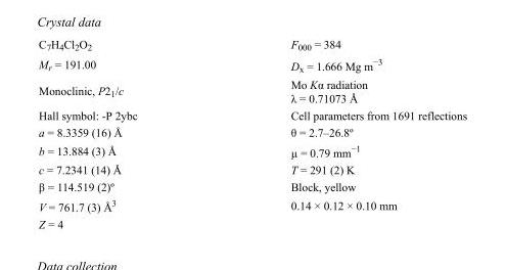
<table><tbody><tr><td>C<sub>7</sub>H<sub>4</sub>Cl<sub>2</sub>O<sub>2</sub></td><td>F<sub>000</sub> = 384</td></tr><tr><td>M<sub>r</sub> = 191.00</td><td>D<sub>x</sub> = 1.666 Mg m<sup>−3</sup></td></tr><tr><td>Monoclinic, P2<sub>1</sub>/c</td><td>Mo Kα radiation λ = 0.71073 Å</td></tr><tr><td>Hall symbol: -P 2ybc</td><td>Cell parameters from 1691 reflections</td></tr><tr><td>a = 8.3359 (16) Å</td><td>θ = 2.7–26.8º</td></tr><tr><td>b = 13.884 (3) Å</td><td>µ = 0.79 mm<sup>−1</sup></td></tr><tr><td>c = 7.2341 (14) Å</td><td>T = 291 (2) K</td></tr><tr><td>β = 114.519 (2)º</td><td>Block, yellow</td></tr><tr><td>V = 761.7 (3) Å<sup>3</sup></td><td>0.14 × 0.12 × 0.10 mm</td></tr><tr><td>Z = 4</td><td></td></tr></tbody></table>